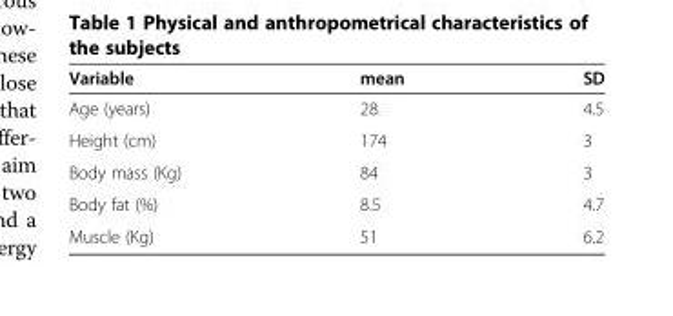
<table><thead><tr><td>Variable</td><td>mean</td><td>SD</td></tr></thead><tbody><tr><td>Age (years)</td><td>28</td><td>4.5</td></tr><tr><td>Height (cm)</td><td>174</td><td>3</td></tr><tr><td>Body mass (Kg)</td><td>84</td><td>3</td></tr><tr><td>Body fat (%)</td><td>8.5</td><td>4.7</td></tr><tr><td>Muscle (Kg)</td><td>51</td><td>6.2</td></tr></tbody></table>